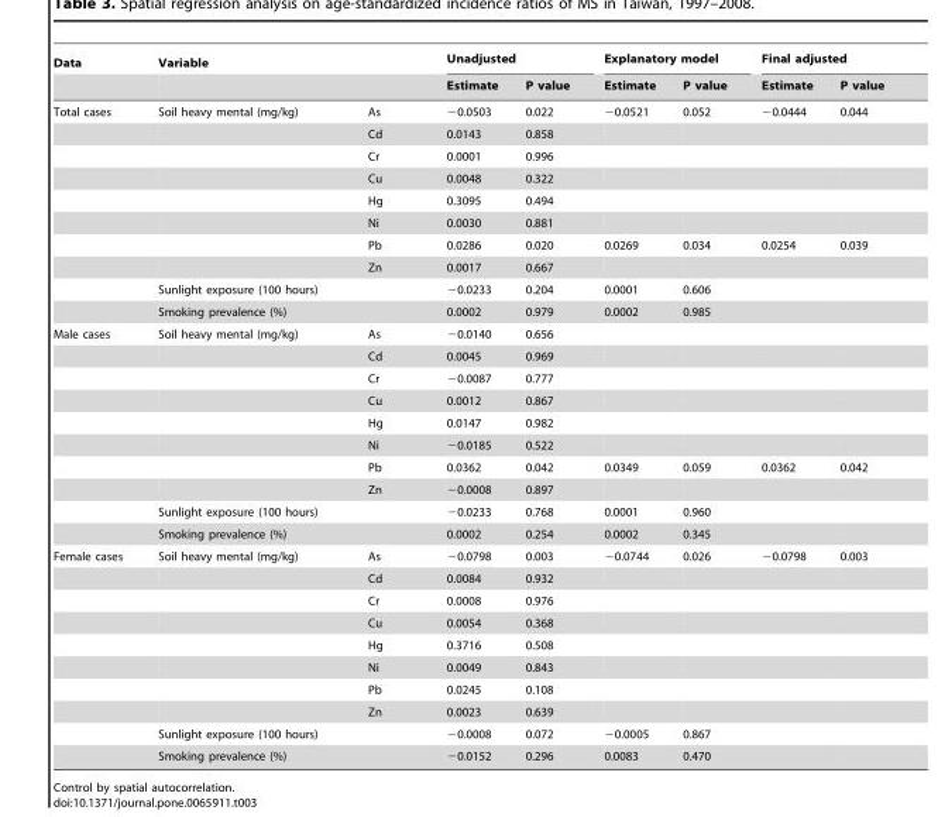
<table><thead><tr><td rowspan="2">Data</td><td colspan="2">Variable</td><td colspan="2">Unadjusted</td><td colspan="2">Explanatory model</td><td colspan="2">Final adjusted</td></tr><tr><td></td><td></td><td>Estimate</td><td>P value</td><td>Estimate</td><td>P value</td><td>Estimate</td><td>P value</td></tr></thead><tbody><tr><td rowspan="10">Total cases</td><td>Soil heavy mental (mg/kg)</td><td>As</td><td>−0.0503</td><td>0.022</td><td>−0.0521</td><td>0.052</td><td>−0.0444</td><td>0.044</td></tr><tr><td></td><td>Cd</td><td>0.0143</td><td>0.858</td><td></td><td></td><td></td><td></td></tr><tr><td></td><td>Cr</td><td>0.0001</td><td>0.996</td><td></td><td></td><td></td><td></td></tr><tr><td></td><td>Cu</td><td>0.0048</td><td>0.322</td><td></td><td></td><td></td><td></td></tr><tr><td></td><td>Hg</td><td>0.3095</td><td>0.494</td><td></td><td></td><td></td><td></td></tr><tr><td></td><td>Ni</td><td>0.0030</td><td>0.881</td><td></td><td></td><td></td><td></td></tr><tr><td></td><td>Pb</td><td>0.0286</td><td>0.020</td><td>0.0269</td><td>0.034</td><td>0.0254</td><td>0.039</td></tr><tr><td></td><td>Zn</td><td>0.0017</td><td>0.667</td><td></td><td></td><td></td><td></td></tr><tr><td colspan="2">Sunlight exposure (100 hours)</td><td>−0.0233</td><td>0.204</td><td>0.0001</td><td>0.606</td><td></td><td></td></tr><tr><td colspan="2">Smoking prevalence (%)</td><td>0.0002</td><td>0.979</td><td>0.0002</td><td>0.985</td><td></td><td></td></tr><tr><td rowspan="10">Male cases</td><td>Soil heavy mental (mg/kg)</td><td>As</td><td>−0.0140</td><td>0.656</td><td></td><td></td><td></td><td></td></tr><tr><td></td><td>Cd</td><td>0.0045</td><td>0.969</td><td></td><td></td><td></td><td></td></tr><tr><td></td><td>Cr</td><td>−0.0087</td><td>0.777</td><td></td><td></td><td></td><td></td></tr><tr><td></td><td>Cu</td><td>0.0012</td><td>0.867</td><td></td><td></td><td></td><td></td></tr><tr><td></td><td>Hg</td><td>0.0147</td><td>0.982</td><td></td><td></td><td></td><td></td></tr><tr><td></td><td>Ni</td><td>−0.0185</td><td>0.522</td><td></td><td></td><td></td><td></td></tr><tr><td></td><td>Pb</td><td>0.0362</td><td>0.042</td><td>0.0349</td><td>0.059</td><td>0.0362</td><td>0.042</td></tr><tr><td></td><td>Zn</td><td>−0.0008</td><td>0.897</td><td></td><td></td><td></td><td></td></tr><tr><td colspan="2">Sunlight exposure (100 hours)</td><td>−0.0233</td><td>0.768</td><td>0.0001</td><td>0.960</td><td></td><td></td></tr><tr><td colspan="2">Smoking prevalence (%)</td><td>0.0002</td><td>0.254</td><td>0.0002</td><td>0.345</td><td></td><td></td></tr><tr><td rowspan="10">Female cases</td><td>Soil heavy mental (mg/kg)</td><td>As</td><td>−0.0798</td><td>0.003</td><td>−0.0744</td><td>0.026</td><td>−0.0798</td><td>0.003</td></tr><tr><td></td><td>Cd</td><td>0.0084</td><td>0.932</td><td></td><td></td><td></td><td></td></tr><tr><td></td><td>Cr</td><td>0.0008</td><td>0.976</td><td></td><td></td><td></td><td></td></tr><tr><td></td><td>Cu</td><td>0.0054</td><td>0.368</td><td></td><td></td><td></td><td></td></tr><tr><td></td><td>Hg</td><td>0.3716</td><td>0.508</td><td></td><td></td><td></td><td></td></tr><tr><td></td><td>Ni</td><td>0.0049</td><td>0.843</td><td></td><td></td><td></td><td></td></tr><tr><td></td><td>Pb</td><td>0.0245</td><td>0.108</td><td></td><td></td><td></td><td></td></tr><tr><td></td><td>Zn</td><td>0.0023</td><td>0.639</td><td></td><td></td><td></td><td></td></tr><tr><td colspan="2">Sunlight exposure (100 hours)</td><td>−0.0008</td><td>0.072</td><td>−0.0005</td><td>0.867</td><td></td><td></td></tr><tr><td colspan="2">Smoking prevalence (%)</td><td>−0.0152</td><td>0.296</td><td>0.0083</td><td>0.470</td><td></td><td></td></tr></tbody></table>